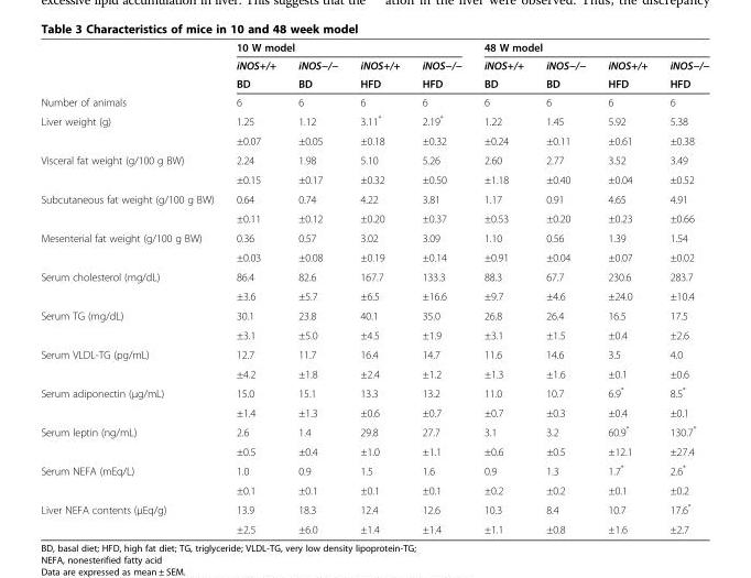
<table><thead><tr><td rowspan="3"></td><td colspan="4">10 W model</td><td colspan="4">48 W model</td></tr><tr><td rowspan="2">iNOS+/+ BD</td><td rowspan="2">iNOS−/− BD</td><td rowspan="2">iNOS+/+ HFD</td><td rowspan="2">iNOS−/− HFD</td><td rowspan="2">iNOS+/+ BD</td><td rowspan="2">iNOS−/− BD</td><td rowspan="2">iNOS+/+ HFD</td><td rowspan="2">iNOS−/− HFD</td></tr><tr></tr></thead><tbody><tr><td>Number of animals</td><td>6</td><td>6</td><td>6</td><td>6</td><td>6</td><td>6</td><td>6</td><td>6</td></tr><tr><td rowspan="2">Liver weight (g)</td><td>1.25</td><td>1.12</td><td>3.11*</td><td>2.19*</td><td>1.22</td><td>1.45</td><td>5.92</td><td>5.38</td></tr><tr><td>±0.07</td><td>±0.05</td><td>±0.18</td><td>±0.32</td><td>±0.24</td><td>±0.11</td><td>±0.61</td><td>±0.38</td></tr><tr><td rowspan="2">Visceral fat weight (g/100 g BW)</td><td>2.24</td><td>1.98</td><td>5.10</td><td>5.26</td><td>2.60</td><td>2.77</td><td>3.52</td><td>3.49</td></tr><tr><td>±0.15</td><td>±0.17</td><td>±0.32</td><td>±0.50</td><td>±1.18</td><td>±0.40</td><td>±0.04</td><td>±0.52</td></tr><tr><td rowspan="2">Subcutaneous fat weight (g/100 g BW)</td><td>0.64</td><td>0.74</td><td>4.22</td><td>3.81</td><td>1.17</td><td>0.91</td><td>4.65</td><td>4.91</td></tr><tr><td>±0.11</td><td>±0.12</td><td>±0.20</td><td>±0.37</td><td>±0.53</td><td>±0.20</td><td>±0.23</td><td>±0.66</td></tr><tr><td rowspan="2">Mesenterial fat weight (g/100 g BW)</td><td>0.36</td><td>0.57</td><td>3.02</td><td>3.09</td><td>1.10</td><td>0.56</td><td>1.39</td><td>1.54</td></tr><tr><td>±0.03</td><td>±0.08</td><td>±0.19</td><td>±0.14</td><td>±0.91</td><td>±0.04</td><td>±0.07</td><td>±0.02</td></tr><tr><td rowspan="2">Serum cholesterol (mg/dL)</td><td>86.4</td><td>82.6</td><td>167.7</td><td>133.3</td><td>88.3</td><td>67.7</td><td>230.6</td><td>283.7</td></tr><tr><td>±3.6</td><td>±5.7</td><td>±6.5</td><td>±16.6</td><td>±9.7</td><td>±4.6</td><td>±24.0</td><td>±10.4</td></tr><tr><td rowspan="2">Serum TG (mg/dL)</td><td>30.1</td><td>23.8</td><td>40.1</td><td>35.0</td><td>26.8</td><td>26.4</td><td>16.5</td><td>17.5</td></tr><tr><td>±3.1</td><td>±5.0</td><td>±4.5</td><td>±1.9</td><td>±3.1</td><td>±1.5</td><td>±0.4</td><td>±2.6</td></tr><tr><td rowspan="2">Serum VLDL-TG (pg/mL)</td><td>12.7</td><td>11.7</td><td>16.4</td><td>14.7</td><td>11.6</td><td>14.6</td><td>3.5</td><td>4.0</td></tr><tr><td>±4.2</td><td>±1.8</td><td>±2.4</td><td>±1.2</td><td>±1.3</td><td>±1.6</td><td>±0.1</td><td>±0.6</td></tr><tr><td rowspan="2">Serum adiponectin (μg/mL)</td><td>15.0</td><td>15.1</td><td>13.3</td><td>13.2</td><td>11.0</td><td>10.7</td><td>6.9*</td><td>8.5*</td></tr><tr><td>±1.4</td><td>±1.3</td><td>±0.6</td><td>±0.7</td><td>±0.7</td><td>±0.3</td><td>±0.4</td><td>±0.1</td></tr><tr><td rowspan="2">Serum leptin (ng/mL)</td><td>2.6</td><td>1.4</td><td>29.8</td><td>27.7</td><td>3.1</td><td>3.2</td><td>60.9*</td><td>130.7*</td></tr><tr><td>±0.5</td><td>±0.4</td><td>±1.0</td><td>±1.1</td><td>±0.6</td><td>±0.5</td><td>±12.1</td><td>±27.4</td></tr><tr><td rowspan="2">Serum NEFA (mEq/L)</td><td>1.0</td><td>0.9</td><td>1.5</td><td>1.6</td><td>0.9</td><td>1.3</td><td>1.7*</td><td>2.6*</td></tr><tr><td>±0.1</td><td>±0.1</td><td>±0.1</td><td>±0.1</td><td>±0.2</td><td>±0.2</td><td>±0.1</td><td>±0.2</td></tr><tr><td rowspan="2">Liver NEFA contents (μEq/g)</td><td>13.9</td><td>18.3</td><td>12.4</td><td>12.6</td><td>10.3</td><td>8.4</td><td>10.7</td><td>17.6*</td></tr><tr><td>±2.5</td><td>±6.0</td><td>±1.4</td><td>±1.4</td><td>±1.1</td><td>±0.8</td><td>±1.6</td><td>±2.7</td></tr></tbody></table>